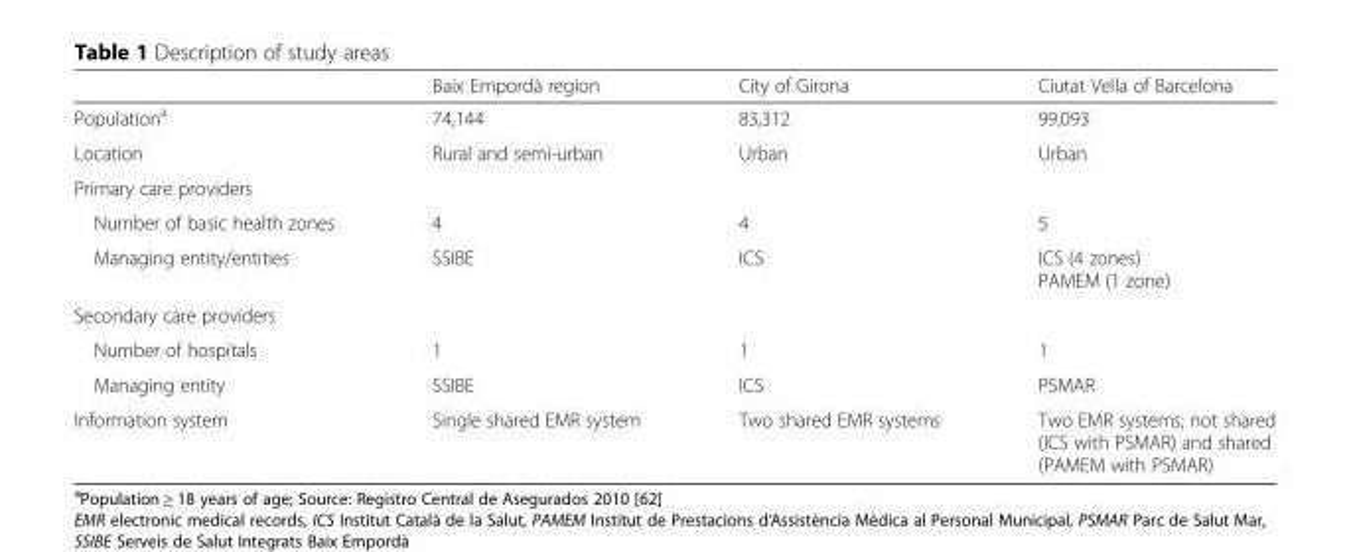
<table><thead><tr><td></td><td>Baix Empordà region</td><td>City of Girona</td><td>Ciutat Vella of Barcelona</td></tr></thead><tbody><tr><td>Population<sup>a</sup></td><td>74,144</td><td>83,312</td><td>99,093</td></tr><tr><td>Location</td><td>Rural and semi-urban</td><td>Urban</td><td>Urban</td></tr><tr><td colspan="4">Primary care providers</td></tr><tr><td>Number of basic health zones</td><td>4</td><td>4</td><td>5</td></tr><tr><td>Managing entity/entities</td><td>SSIBE</td><td>ICS</td><td>ICS (4 zones) PAMEM (1 zone)</td></tr><tr><td colspan="4">Secondary care providers</td></tr><tr><td>Number of hospitals</td><td>1</td><td>1</td><td>1</td></tr><tr><td>Managing entity</td><td>SSIBE</td><td>ICS</td><td>PSMAR</td></tr><tr><td>Information system</td><td>Single shared EMR system</td><td>Two shared EMR systems</td><td>Two EMR systems; not shared (ICS with PSMAR) and shared (PAMEM with PSMAR)</td></tr></tbody></table>